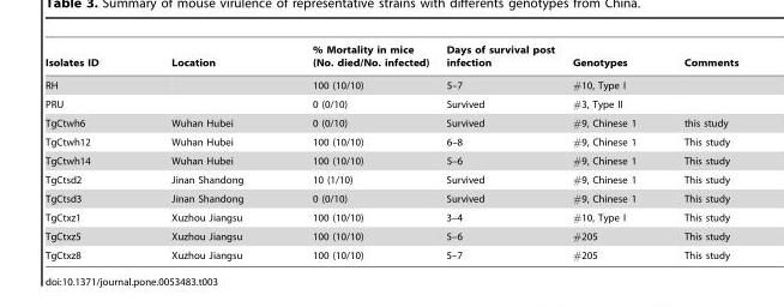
<table><thead><tr><td>Isolates ID</td><td>Location</td><td>% Mortality in mice (No. died/No. infected)</td><td>Days of survival post infection</td><td>Genotypes</td><td>Comments</td></tr></thead><tbody><tr><td>RH</td><td></td><td>100 (10/10)</td><td>5–7</td><td>#10, Type I</td><td></td></tr><tr><td>PRU</td><td></td><td>0 (0/10)</td><td>Survived</td><td>#3, Type II</td><td></td></tr><tr><td>TgCtwh6</td><td>Wuhan Hubei</td><td>0 (0/10)</td><td>Survived</td><td>#9, Chinese 1</td><td>this study</td></tr><tr><td>TgCtwh12</td><td>Wuhan Hubei</td><td>100 (10/10)</td><td>6–8</td><td>#9, Chinese 1</td><td>This study</td></tr><tr><td>TgCtwh14</td><td>Wuhan Hubei</td><td>100 (10/10)</td><td>5–6</td><td>#9, Chinese 1</td><td>This study</td></tr><tr><td>TgCtsd2</td><td>Jinan Shandong</td><td>10 (1/10)</td><td>Survived</td><td>#9, Chinese 1</td><td>This study</td></tr><tr><td>TgCtsd3</td><td>Jinan Shandong</td><td>0 (0/10)</td><td>Survived</td><td>#9, Chinese 1</td><td>This study</td></tr><tr><td>TgCtxz1</td><td>Xuzhou Jiangsu</td><td>100 (10/10)</td><td>3–4</td><td>#10, Type I</td><td>This study</td></tr><tr><td>TgCtxz5</td><td>Xuzhou Jiangsu</td><td>100 (10/10)</td><td>5–6</td><td>#205</td><td>This study</td></tr><tr><td>TgCtxz8</td><td>Xuzhou Jiangsu</td><td>100 (10/10)</td><td>5–7</td><td>#205</td><td>This study</td></tr></tbody></table>